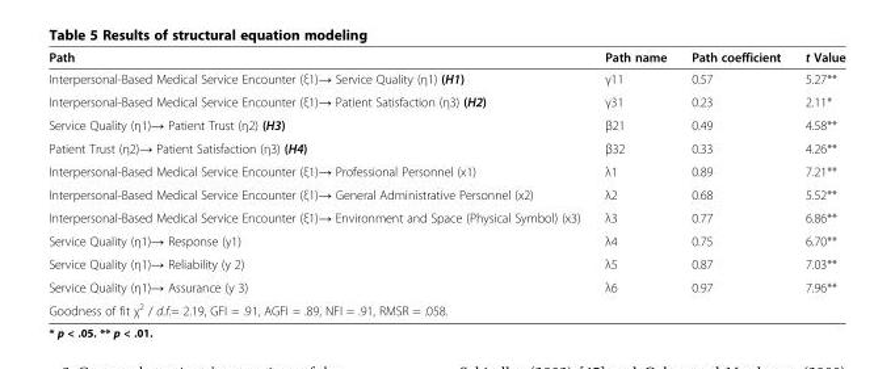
<table><thead><tr><td>Path</td><td>Path name</td><td>Path coefficient</td><td>t Value</td></tr></thead><tbody><tr><td>Interpersonal-Based Medical Service Encounter (ξ1)→ Service Quality (η1) (H1)</td><td>γ11</td><td>0.57</td><td>5.27**</td></tr><tr><td>Interpersonal-Based Medical Service Encounter (ξ1)→ Patient Satisfaction (η3) (H2)</td><td>γ31</td><td>0.23</td><td>2.11*</td></tr><tr><td>Service Quality (η1)→ Patient Trust (η2) (H3)</td><td>β21</td><td>0.49</td><td>4.58**</td></tr><tr><td>Patient Trust (η2)→ Patient Satisfaction (η3) (H4)</td><td>β32</td><td>0.33</td><td>4.26**</td></tr><tr><td>Interpersonal-Based Medical Service Encounter (ξ1)→ Professional Personnel (x1)</td><td>λ1</td><td>0.89</td><td>7.21**</td></tr><tr><td>Interpersonal-Based Medical Service Encounter (ξ1)→ General Administrative Personnel (x2)</td><td>λ2</td><td>0.68</td><td>5.52**</td></tr><tr><td>Interpersonal-Based Medical Service Encounter (ξ1)→ Environment and Space (Physical Symbol) (x3)</td><td>λ3</td><td>0.77</td><td>6.86**</td></tr><tr><td>Service Quality (η1)→ Response (y1)</td><td>λ4</td><td>0.75</td><td>6.70**</td></tr><tr><td>Service Quality (η1)→ Reliability (y 2)</td><td>λ5</td><td>0.87</td><td>7.03**</td></tr><tr><td>Service Quality (η1)→ Assurance (y 3)</td><td>λ6</td><td>0.97</td><td>7.96**</td></tr><tr><td colspan="4">Goodness of fit χ<sup>2</sup> / d.f.= 2.19, GFI = .91, AGFI = .89, NFI = .91, RMSR = .058.</td></tr></tbody></table>